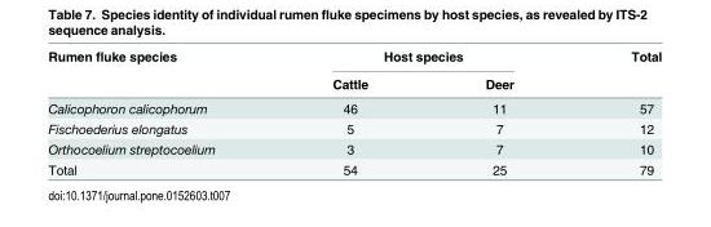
<table><thead><tr><td rowspan="2">Rumen fluke species</td><td colspan="2">Host species</td><td rowspan="2">Total</td></tr><tr><td>Cattle</td><td>Deer</td></tr></thead><tbody><tr><td>Calicophoron calicophorum</td><td>46</td><td>11</td><td>57</td></tr><tr><td>Fischoederius elongatus</td><td>5</td><td>7</td><td>12</td></tr><tr><td>Orthocoelium streptocoelium</td><td>3</td><td>7</td><td>10</td></tr><tr><td>Total</td><td>54</td><td>25</td><td>79</td></tr></tbody></table>